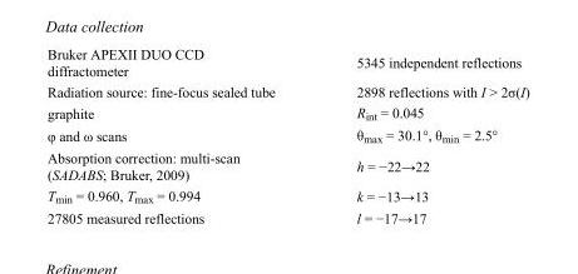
<table><tbody><tr><td>Bruker APEXII DUO CCD diffractometer</td><td>5345 independent reflections</td></tr><tr><td>Radiation source: fine-focus sealed tube</td><td>2898 reflections with I &gt; 2σ(I)</td></tr><tr><td>graphite</td><td>R<sub>int</sub> = 0.045</td></tr><tr><td>φ and ω scans</td><td>θ<sub>max</sub> = 30.1°, θ<sub>min</sub> = 2.5°</td></tr><tr><td>Absorption correction: multi-scan (SADABS; Bruker, 2009)</td><td>h = −22→22</td></tr><tr><td>T<sub>min</sub> = 0.960, T<sub>max</sub> = 0.994</td><td>k = −13→13</td></tr><tr><td>27805 measured reflections</td><td>l = −17→17</td></tr></tbody></table>